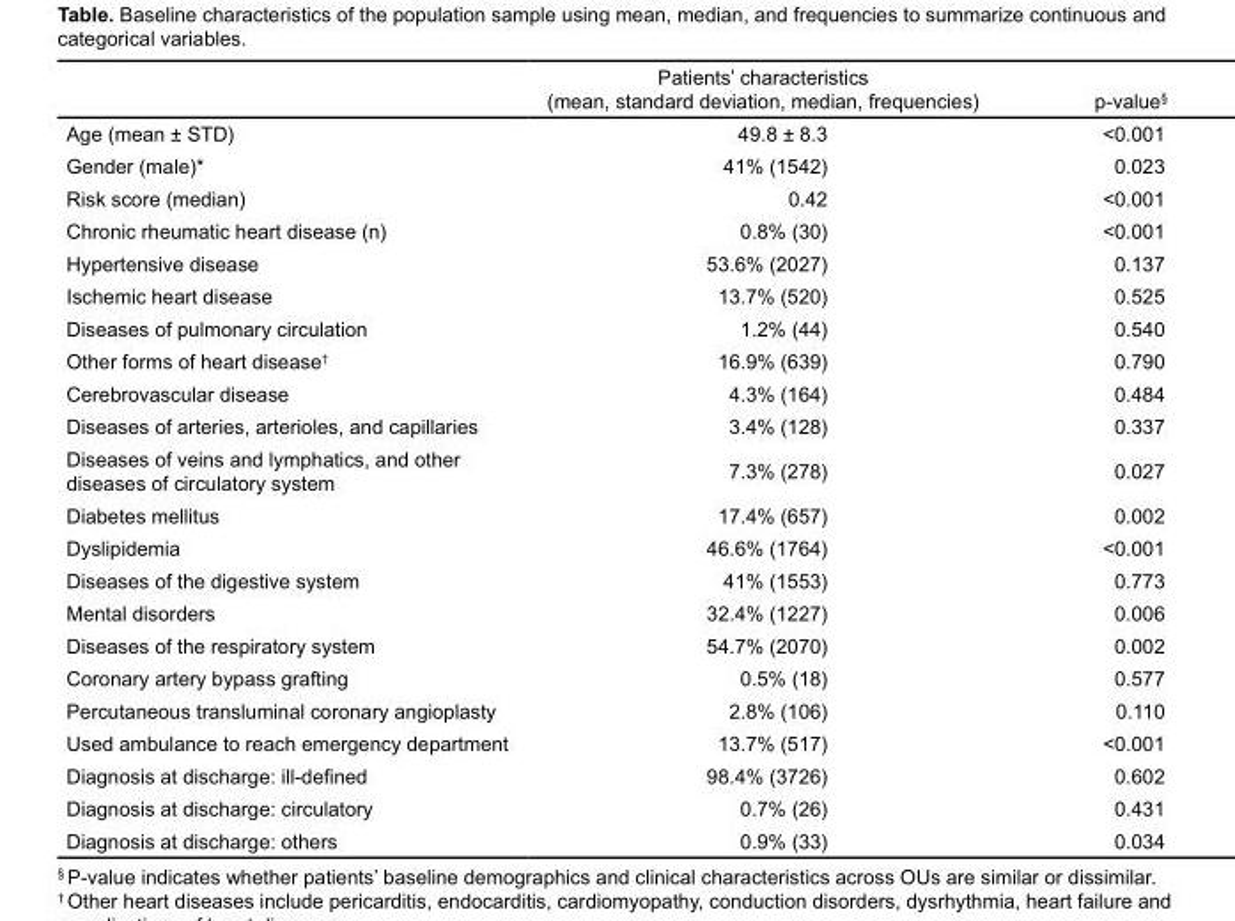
<table><thead><tr><td></td><td>Patients’ characteristics (mean, standard deviation, median, frequencies)</td><td>p-value§</td></tr></thead><tbody><tr><td>Age (mean ± STD)</td><td>49.8 ± 8.3</td><td>&lt;0.001</td></tr><tr><td>Gender (male)*</td><td>41% (1542)</td><td>0.023</td></tr><tr><td>Risk score (median)</td><td>0.42</td><td>&lt;0.001</td></tr><tr><td>Chronic rheumatic heart disease (n)</td><td>0.8% (30)</td><td>&lt;0.001</td></tr><tr><td>Hypertensive disease</td><td>53.6% (2027)</td><td>0.137</td></tr><tr><td>Ischemic heart disease</td><td>13.7% (520)</td><td>0.525</td></tr><tr><td>Diseases of pulmonary circulation</td><td>1.2% (44)</td><td>0.540</td></tr><tr><td>Other forms of heart disease†</td><td>16.9% (639)</td><td>0.790</td></tr><tr><td>Cerebrovascular disease</td><td>4.3% (164)</td><td>0.484</td></tr><tr><td>Diseases of arteries, arterioles, and capillaries</td><td>3.4% (128)</td><td>0.337</td></tr><tr><td>Diseases of veins and lymphatics, and other diseases of circulatory system</td><td>7.3% (278)</td><td>0.027</td></tr><tr><td>Diabetes mellitus</td><td>17.4% (657)</td><td>0.002</td></tr><tr><td>Dyslipidemia</td><td>46.6% (1764)</td><td>&lt;0.001</td></tr><tr><td>Diseases of the digestive system</td><td>41% (1553)</td><td>0.773</td></tr><tr><td>Mental disorders</td><td>32.4% (1227)</td><td>0.006</td></tr><tr><td>Diseases of the respiratory system</td><td>54.7% (2070)</td><td>0.002</td></tr><tr><td>Coronary artery bypass grafting</td><td>0.5% (18)</td><td>0.577</td></tr><tr><td>Percutaneous transluminal coronary angioplasty</td><td>2.8% (106)</td><td>0.110</td></tr><tr><td>Used ambulance to reach emergency department</td><td>13.7% (517)</td><td>&lt;0.001</td></tr><tr><td>Diagnosis at discharge: ill-defined</td><td>98.4% (3726)</td><td>0.602</td></tr><tr><td>Diagnosis at discharge: circulatory</td><td>0.7% (26)</td><td>0.431</td></tr><tr><td>Diagnosis at discharge: others</td><td>0.9% (33)</td><td>0.034</td></tr></tbody></table>